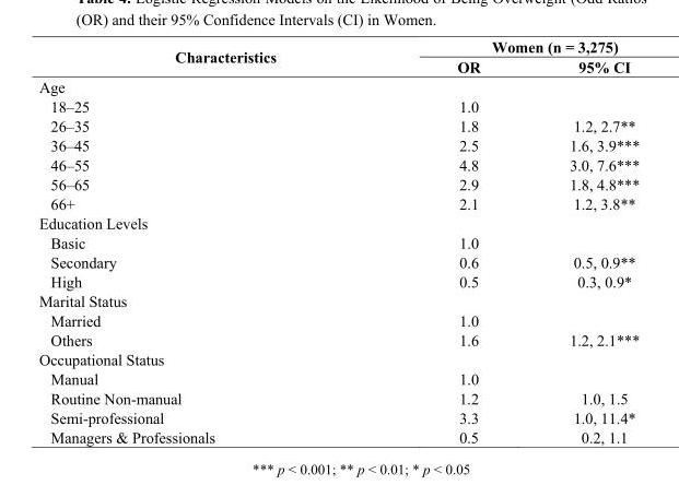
<table><thead><tr><td rowspan="2">Characteristics</td><td colspan="2">Women (n = 3,275)</td></tr><tr><td>OR</td><td>95% CI</td></tr></thead><tbody><tr><td colspan="3">Age</td></tr><tr><td>18–25</td><td>1.0</td><td></td></tr><tr><td>26–35</td><td>1.8</td><td>1.2, 2.7**</td></tr><tr><td>36–45</td><td>2.5</td><td>1.6, 3.9***</td></tr><tr><td>46–55</td><td>4.8</td><td>3.0, 7.6***</td></tr><tr><td>56–65</td><td>2.9</td><td>1.8, 4.8***</td></tr><tr><td>66+</td><td>2.1</td><td>1.2, 3.8**</td></tr><tr><td colspan="3">Education Levels</td></tr><tr><td>Basic</td><td>1.0</td><td></td></tr><tr><td>Secondary</td><td>0.6</td><td>0.5, 0.9**</td></tr><tr><td>High</td><td>0.5</td><td>0.3, 0.9*</td></tr><tr><td colspan="3">Marital Status</td></tr><tr><td>Married</td><td>1.0</td><td></td></tr><tr><td>Others</td><td>1.6</td><td>1.2, 2.1***</td></tr><tr><td colspan="3">Occupational Status</td></tr><tr><td>Manual</td><td>1.0</td><td></td></tr><tr><td>Routine Non-manual</td><td>1.2</td><td>1.0, 1.5</td></tr><tr><td>Semi-professional</td><td>3.3</td><td>1.0, 11.4*</td></tr><tr><td>Managers &amp; Professionals</td><td>0.5</td><td>0.2, 1.1</td></tr></tbody></table>